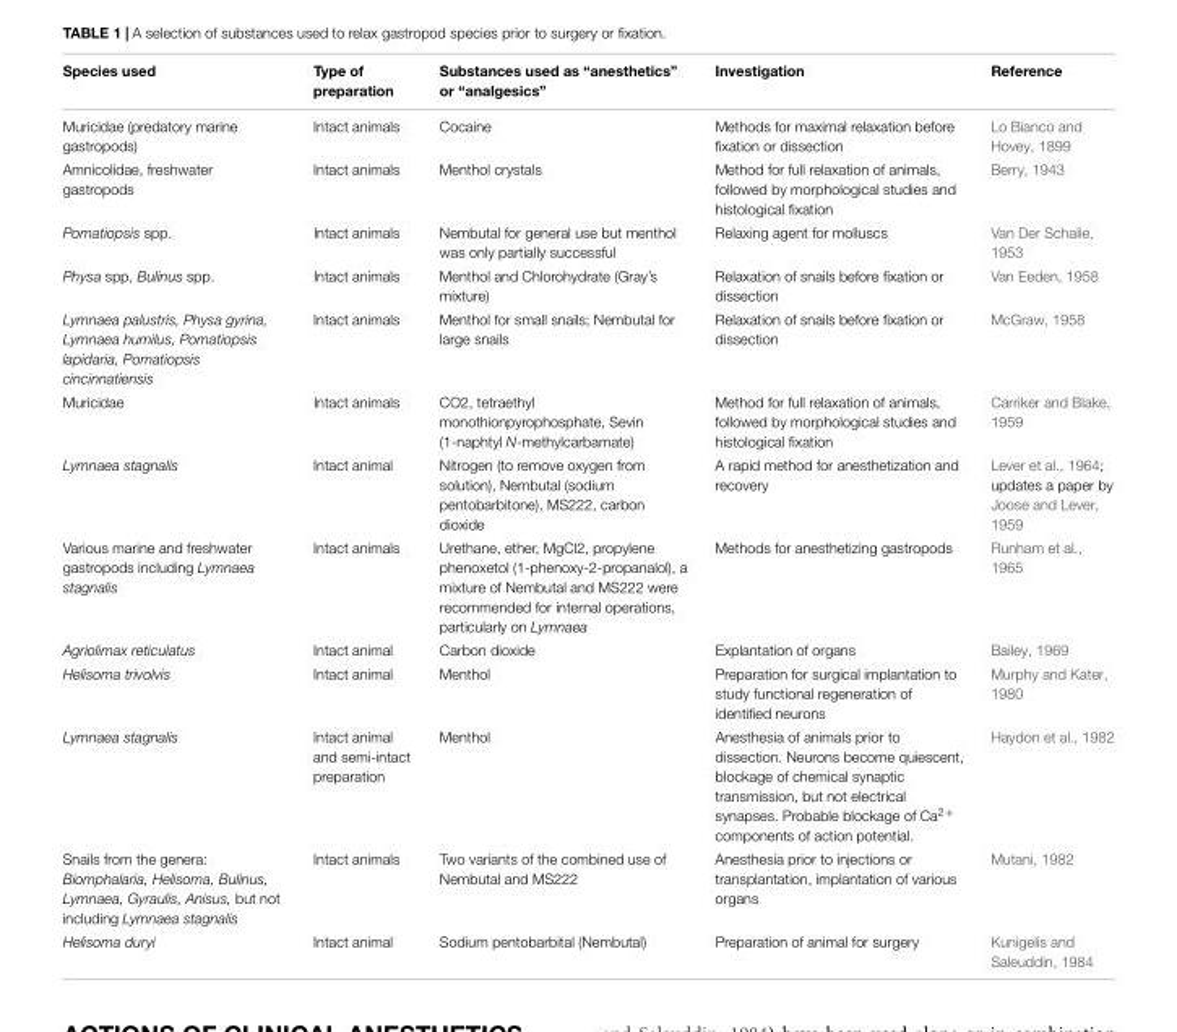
<table><thead><tr><td>Species used</td><td>Type of preparation</td><td>Substances used as “anesthetics” or “analgesics”</td><td>Investigation</td><td>Reference</td></tr></thead><tbody><tr><td>Muricidae (predatory marine gastropods)</td><td>Intact animals</td><td>Cocaine</td><td>Methods for maximal relaxation before fixation or dissection</td><td>Lo Bianco and Hovey, 1899</td></tr><tr><td>Amnicolidae, freshwater gastropods</td><td>Intact animals</td><td>Menthol crystals</td><td>Method for full relaxation of animals, followed by morphological studies and histological fixation</td><td>Berry, 1943</td></tr><tr><td>Pomatiopsis spp.</td><td>Intact animals</td><td>Nembutal for general use but menthol was only partially successful</td><td>Relaxing agent for molluscs</td><td>Van Der Schalie, 1953</td></tr><tr><td>Physa spp, Bulinus spp.</td><td>Intact animals</td><td>Menthol and Chlorohydrate (Gray’s mixture)</td><td>Relaxation of snails before fixation or dissection</td><td>Van Eeden, 1958</td></tr><tr><td>Lymnaea palustris, Physa gyrina, Lymnaea humilus, Pomatiopsis lapidaria, Pomatiopsis cincinnatiensis</td><td>Intact animals</td><td>Menthol for small snails; Nembutal for large snails</td><td>Relaxation of snails before fixation or dissection</td><td>McGraw, 1958</td></tr><tr><td>Muricidae</td><td>Intact animals</td><td>CO2, tetraethyl monothionpyrophosphate, Sevin (1-naphtyl N-methylcarbamate)</td><td>Method for full relaxation of animals, followed by morphological studies and histological fixation</td><td>Carriker and Blake, 1959</td></tr><tr><td>Lymnaea stagnalis</td><td>Intact animal</td><td>Nitrogen (to remove oxygen from solution), Nembutal (sodium pentobarbitone), MS222, carbon dioxide</td><td>A rapid method for anesthetization and recovery</td><td>Lever et al., 1964; updates a paper by Joose and Lever, 1959</td></tr><tr><td>Various marine and freshwater gastropods including Lymnaea stagnalis</td><td>Intact animals</td><td>Urethane, ether, MgCl2, propylene phenoxetol (1-phenoxy-2-propanalol), a mixture of Nembutal and MS222 were recommended for internal operations, particularly on Lymnaea</td><td>Methods for anesthetizing gastropods</td><td>Runham et al., 1965</td></tr><tr><td>Agriolimax reticulatus</td><td>Intact animal</td><td>Carbon dioxide</td><td>Explantation of organs</td><td>Bailey, 1969</td></tr><tr><td>Helisoma trivolvis</td><td>Intact animal</td><td>Menthol</td><td>Preparation for surgical implantation to study functional regeneration of identified neurons</td><td>Murphy and Kater, 1980</td></tr><tr><td>Lymnaea stagnalis</td><td>Intact animal and semi-intact preparation</td><td>Menthol</td><td>Anesthesia of animals prior to dissection. Neurons become quiescent, blockage of chemical synaptic transmission, but not electrical synapses. Probable blockage of Ca<sup>2+</sup> components of action potential.</td><td>Haydon et al., 1982</td></tr><tr><td>Snails from the genera: Biomphalaria, Helisoma, Bulinus, Lymnaea, Gyraulis, Anisus, but not including Lymnaea stagnalis</td><td>Intact animals</td><td>Two variants of the combined use of Nembutal and MS222</td><td>Anesthesia prior to injections or transplantation, implantation of various organs</td><td>Mutani, 1982</td></tr><tr><td>Helisoma duryi</td><td>Intact animal</td><td>Sodium pentobarbital (Nembutal)</td><td>Preparation of animal for surgery</td><td>Kunigelis and Saleuddin, 1984</td></tr></tbody></table>